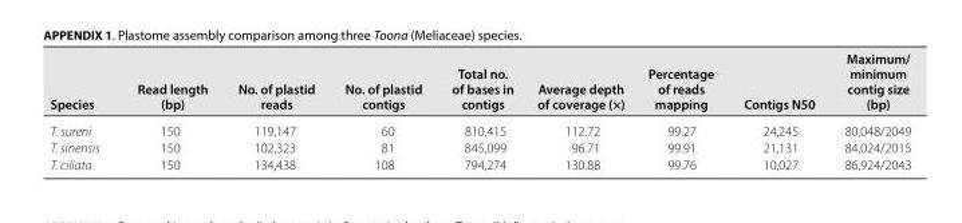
<table><thead><tr><td>Species</td><td>Read length (bp)</td><td>No. of plastid reads</td><td>No. of plastid contigs</td><td>Total no. of bases in contigs</td><td>Average depth of coverage (×)</td><td>Percentage of reads mapping</td><td>Contigs N50</td><td>Maximum/ minimum contig size (bp)</td></tr></thead><tbody><tr><td>T. sureni</td><td>150</td><td>119,147</td><td>60</td><td>810,415</td><td>112.72</td><td>99.27</td><td>24,245</td><td>80,048/2049</td></tr><tr><td>T. sinensis</td><td>150</td><td>102,323</td><td>81</td><td>845,099</td><td>96.71</td><td>99.91</td><td>21,131</td><td>84,024/2015</td></tr><tr><td>T. ciliata</td><td>150</td><td>134,438</td><td>108</td><td>794,274</td><td>130.88</td><td>99.76</td><td>10,027</td><td>86,924/2043</td></tr></tbody></table>